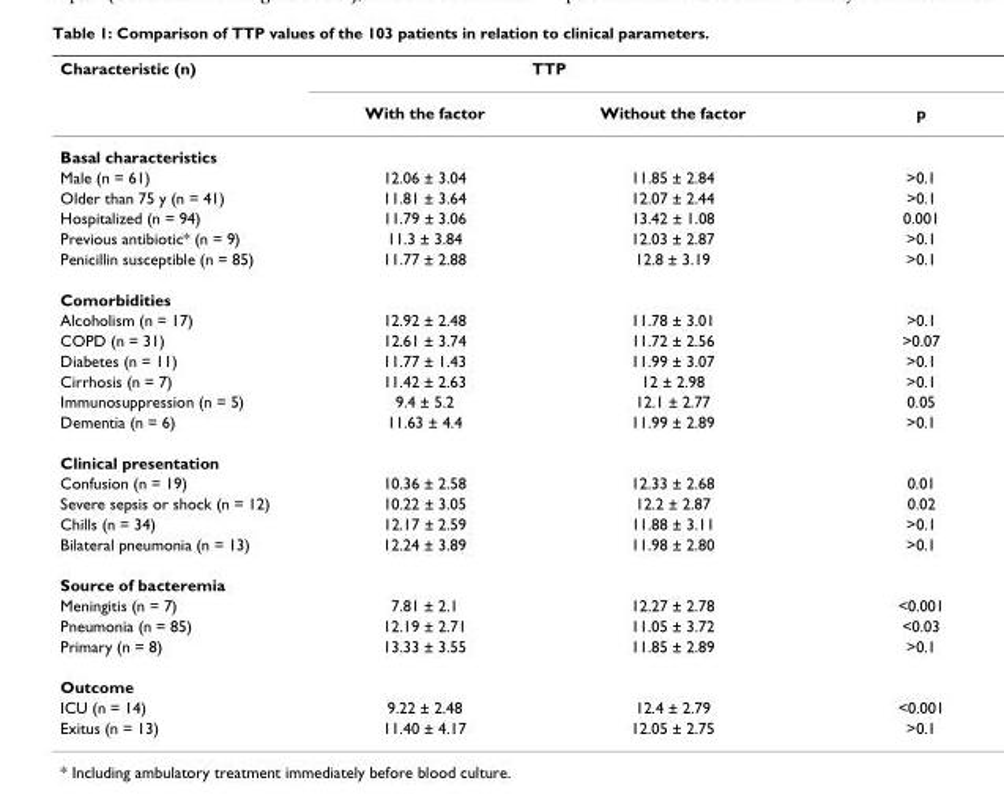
<table><thead><tr><td rowspan="2">Characteristic (n)</td><td colspan="2">TTP</td><td rowspan="2">p</td></tr><tr><td>With the factor</td><td>Without the factor</td></tr></thead><tbody><tr><td colspan="4">Basal characteristics</td></tr><tr><td>Male (n = 61)</td><td>12.06 ± 3.04</td><td>11.85 ± 2.84</td><td>&gt;0.1</td></tr><tr><td>Older than 75 y (n = 41)</td><td>11.81 ± 3.64</td><td>12.07 ± 2.44</td><td>&gt;0.1</td></tr><tr><td>Hospitalized (n = 94)</td><td>11.79 ± 3.06</td><td>13.42 ± 1.08</td><td>0.001</td></tr><tr><td>Previous antibiotic* (n = 9)</td><td>11.3 ± 3.84</td><td>12.03 ± 2.87</td><td>&gt;0.1</td></tr><tr><td>Penicillin susceptible (n = 85)</td><td>11.77 ± 2.88</td><td>12.8 ± 3.19</td><td>&gt;0.1</td></tr><tr><td colspan="4">Comorbidities</td></tr><tr><td>Alcoholism (n = 17)</td><td>12.92 ± 2.48</td><td>11.78 ± 3.01</td><td>&gt;0.1</td></tr><tr><td>COPD (n = 31)</td><td>12.61 ± 3.74</td><td>11.72 ± 2.56</td><td>&gt;0.07</td></tr><tr><td>Diabetes (n = 11)</td><td>11.77 ± 1.43</td><td>11.99 ± 3.07</td><td>&gt;0.1</td></tr><tr><td>Cirrhosis (n = 7)</td><td>11.42 ± 2.63</td><td>12 ± 2.98</td><td>&gt;0.1</td></tr><tr><td>Immunosuppression (n = 5)</td><td>9.4 ± 5.2</td><td>12.1 ± 2.77</td><td>0.05</td></tr><tr><td>Dementia (n = 6)</td><td>11.63 ± 4.4</td><td>11.99 ± 2.89</td><td>&gt;0.1</td></tr><tr><td colspan="4">Clinical presentation</td></tr><tr><td>Confusion (n = 19)</td><td>10.36 ± 2.58</td><td>12.33 ± 2.68</td><td>0.01</td></tr><tr><td>Severe sepsis or shock (n = 12)</td><td>10.22 ± 3.05</td><td>12.2 ± 2.87</td><td>0.02</td></tr><tr><td>Chills (n = 34)</td><td>12.17 ± 2.59</td><td>11.88 ± 3.11</td><td>&gt;0.1</td></tr><tr><td>Bilateral pneumonia (n = 13)</td><td>12.24 ± 3.89</td><td>11.98 ± 2.80</td><td>&gt;0.1</td></tr><tr><td colspan="4">Source of bacteremia</td></tr><tr><td>Meningitis (n = 7)</td><td>7.81 ± 2.1</td><td>12.27 ± 2.78</td><td>&lt;0.001</td></tr><tr><td>Pneumonia (n = 85)</td><td>12.19 ± 2.71</td><td>11.05 ± 3.72</td><td>&lt;0.03</td></tr><tr><td>Primary (n = 8)</td><td>13.33 ± 3.55</td><td>11.85 ± 2.89</td><td>&gt;0.1</td></tr><tr><td colspan="4">Outcome</td></tr><tr><td>ICU (n = 14)</td><td>9.22 ± 2.48</td><td>12.4 ± 2.79</td><td>&lt;0.001</td></tr><tr><td>Exitus (n = 13)</td><td>11.40 ± 4.17</td><td>12.05 ± 2.75</td><td>&gt;0.1</td></tr></tbody></table>